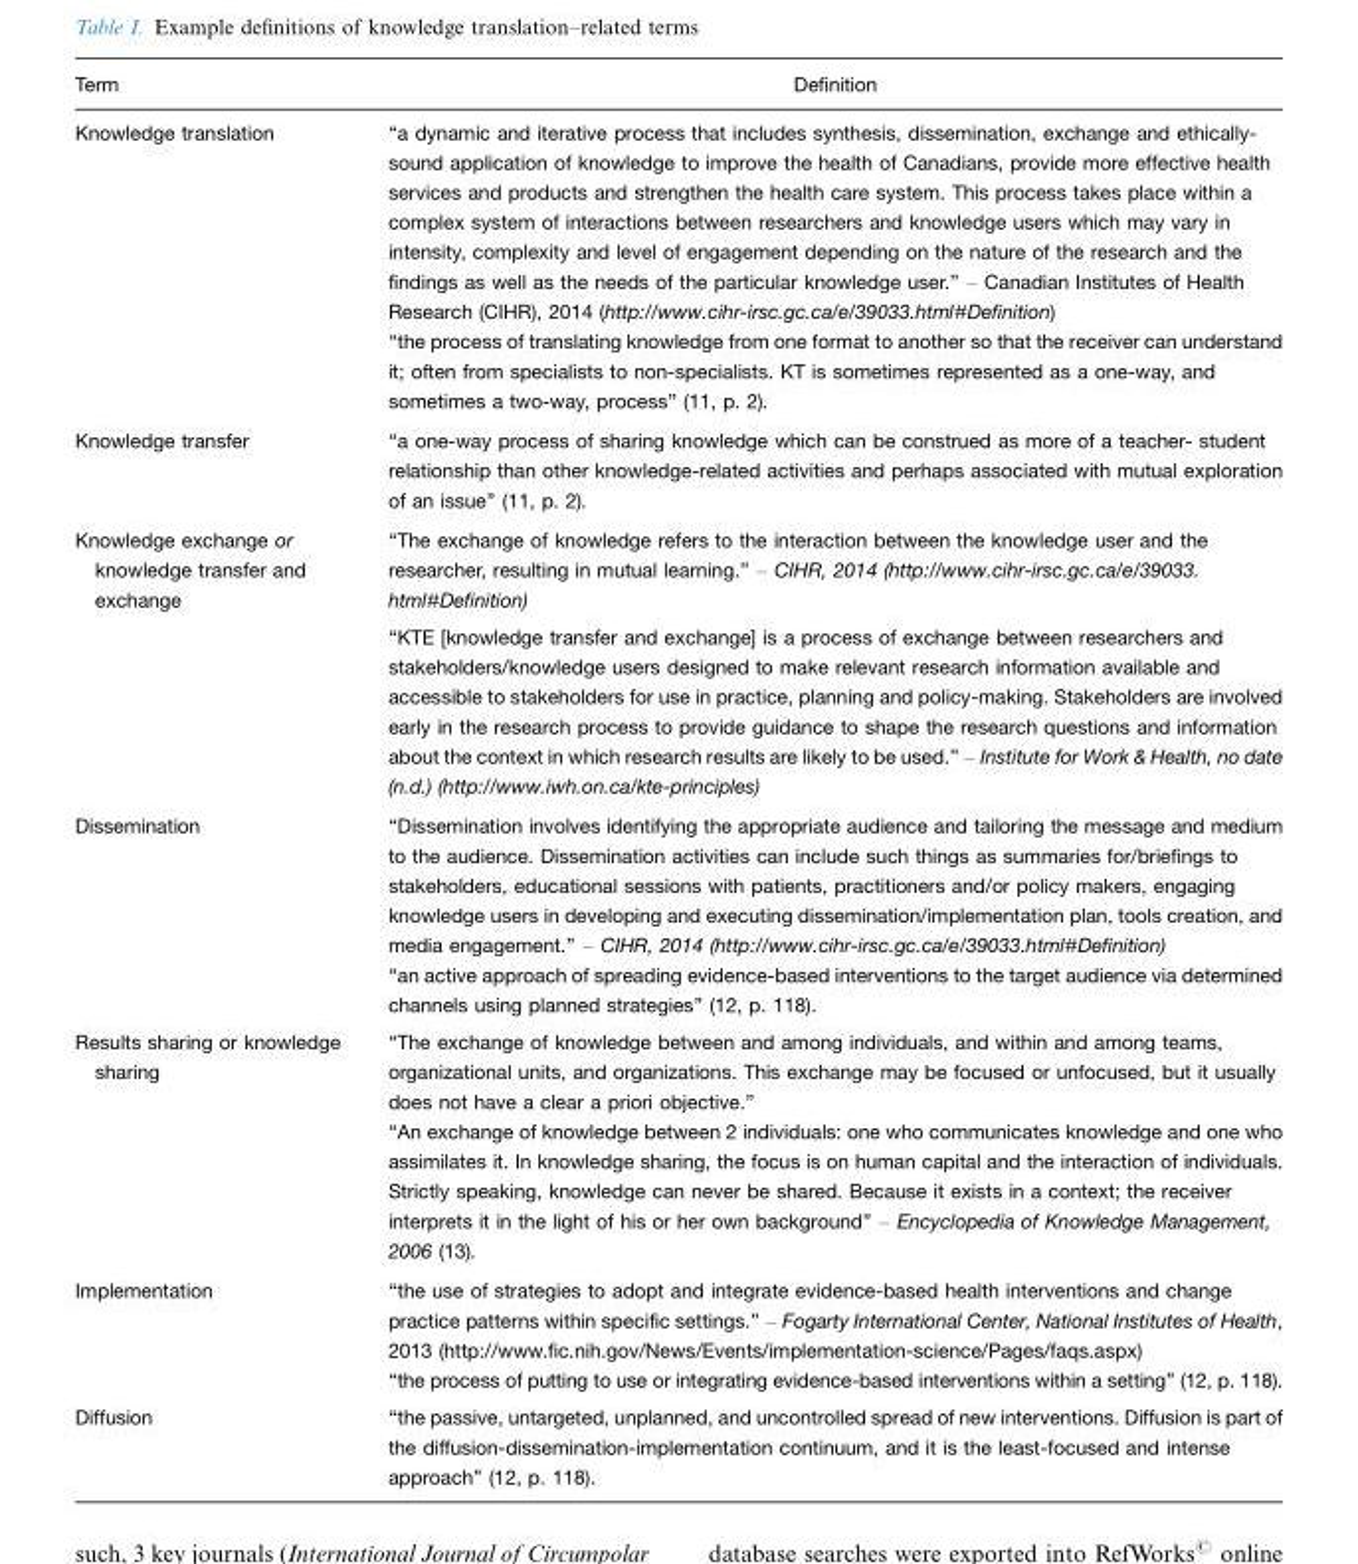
<table><thead><tr><td>Term</td><td>Definition</td></tr></thead><tbody><tr><td>Knowledge translation</td><td>‘‘a dynamic and iterative process that includes synthesis, dissemination, exchange and ethically- sound application of knowledge to improve the health of Canadians, provide more effective health services and products and strengthen the health care system. This process takes place within a complex system of interactions between researchers and knowledge users which may vary in intensity, complexity and level of engagement depending on the nature of the research and the findings as well as the needs of the particular knowledge user.’’ � Canadian Institutes of Health Research (CIHR), 2014 (http://www.cihr-irsc.gc.ca/e/39033.html#Definition) ‘‘the process of translating knowledge from one format to another so that the receiver can understand it; often from specialists to non-specialists. KT is sometimes represented as a one-way, and sometimes a two-way, process’’ (11, p. 2).</td></tr><tr><td>Knowledge transfer</td><td>‘‘a one-way process of sharing knowledge which can be construed as more of a teacher- student relationship than other knowledge-related activities and perhaps associated with mutual exploration of an issue’’ (11, p. 2).</td></tr><tr><td rowspan="2">Knowledge exchange or knowledge transfer and exchange</td><td>‘‘The exchange of knowledge refers to the interaction between the knowledge user and the researcher, resulting in mutual learning.’’ � CIHR, 2014 (http://www.cihr-irsc.gc.ca/e/39033. html#Definition)</td></tr><tr><td>‘‘KTE [knowledge transfer and exchange] is a process of exchange between researchers and stakeholders/knowledge users designed to make relevant research information available and accessible to stakeholders for use in practice, planning and policy-making. Stakeholders are involved early in the research process to provide guidance to shape the research questions and information about the context in which research results are likely to be used.’’ � Institute for Work &amp; Health, no date (n.d.) (http://www.iwh.on.ca/kte-principles)</td></tr><tr><td>Dissemination</td><td>‘‘Dissemination involves identifying the appropriate audience and tailoring the message and medium to the audience. Dissemination activities can include such things as summaries for/briefings to stakeholders, educational sessions with patients, practitioners and/or policy makers, engaging knowledge users in developing and executing dissemination/implementation plan, tools creation, and media engagement.’’ � CIHR, 2014 (http://www.cihr-irsc.gc.ca/e/39033.html#Definition) ‘‘an active approach of spreading evidence-based interventions to the target audience via determined channels using planned strategies’’ (12, p. 118).</td></tr><tr><td>Results sharing or knowledge sharing</td><td>‘‘The exchange of knowledge between and among individuals, and within and among teams, organizational units, and organizations. This exchange may be focused or unfocused, but it usually does not have a clear a priori objective.’’ ‘‘An exchange of knowledge between 2 individuals: one who communicates knowledge and one who assimilates it. In knowledge sharing, the focus is on human capital and the interaction of individuals. Strictly speaking, knowledge can never be shared. Because it exists in a context; the receiver interprets it in the light of his or her own background’’ � Encyclopedia of Knowledge Management, 2006 (13).</td></tr><tr><td>Implementation</td><td>‘‘the use of strategies to adopt and integrate evidence-based health interventions and change practice patterns within specific settings.’’ � Fogarty International Center, National Institutes of Health, 2013 (http://www.fic.nih.gov/News/Events/implementation-science/Pages/faqs.aspx) ‘‘the process of putting to use or integrating evidence-based interventions within a setting’’ (12, p. 118).</td></tr><tr><td>Diffusion</td><td>‘‘the passive, untargeted, unplanned, and uncontrolled spread of new interventions. Diffusion is part of the diffusion-dissemination-implementation continuum, and it is the least-focused and intense approach’’ (12, p. 118).</td></tr></tbody></table>